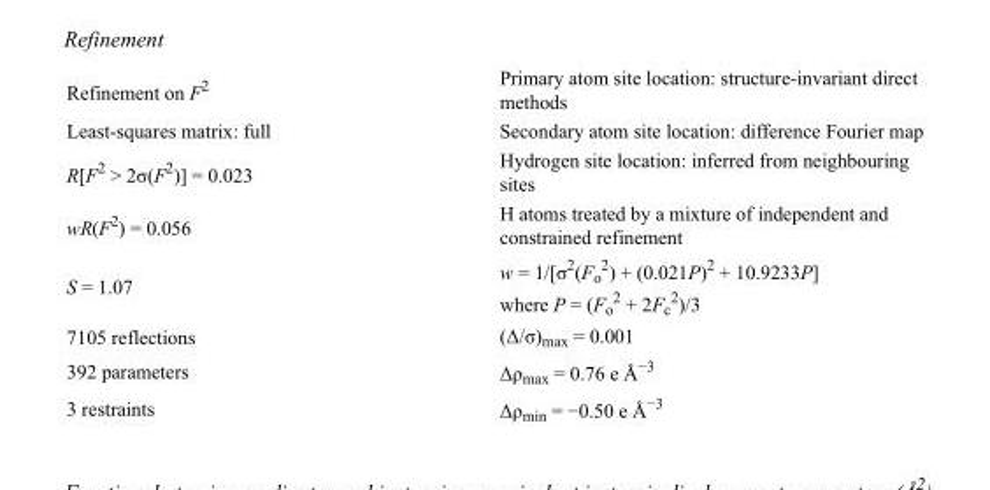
<table><tbody><tr><td>Refinement on F<sup>2</sup></td><td>Primary atom site location: structure-invariant direct methods</td></tr><tr><td>Least-squares matrix: full</td><td>Secondary atom site location: difference Fourier map</td></tr><tr><td>R[F<sup>2</sup> &gt; 2σ(F<sup>2</sup>)] = 0.023</td><td>Hydrogen site location: inferred from neighbouring sites</td></tr><tr><td>wR(F<sup>2</sup>) = 0.056</td><td>H atoms treated by a mixture of independent and constrained refinement</td></tr><tr><td>S = 1.07</td><td>w = 1/[σ<sup>2</sup>(F<sub>o</sub> <sup>2</sup>) + (0.021P)<sup>2</sup> + 10.9233P] where P = (F<sub>o</sub> <sup>2</sup> + 2F<sub>c</sub> <sup>2</sup>)/3</td></tr><tr><td>7105 reflections</td><td>(Δ/σ)<sub>max</sub> = 0.001</td></tr><tr><td>392 parameters</td><td>Δρ<sub>max</sub> = 0.76 e Å<sup>−3</sup></td></tr><tr><td>3 restraints</td><td>Δρ<sub>min</sub> = −0.50 e Å<sup>−3</sup></td></tr></tbody></table>